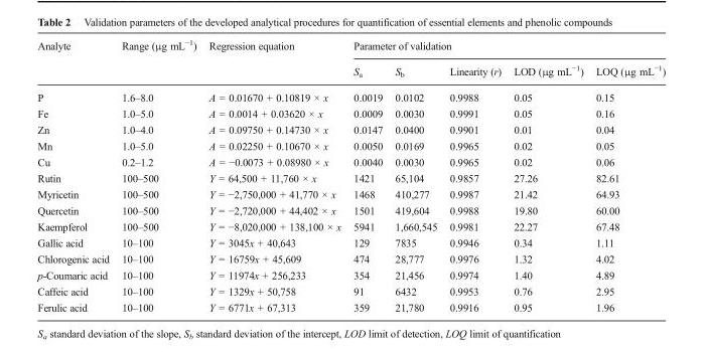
<table><thead><tr><td rowspan="2">Analyte</td><td rowspan="2">Range (μg mL<sup>−1</sup>)</td><td rowspan="2">Regression equation</td><td colspan="5">Parameter of validation</td></tr><tr><td>S<sub>a</sub></td><td>S<sub>b</sub></td><td>Linearity (r)</td><td>LOD (μg mL<sup>−1</sup>)</td><td>LOQ (μg mL<sup>−1</sup>)</td></tr></thead><tbody><tr><td>P</td><td>1.6–8.0</td><td>A = 0.01670 + 0.10819 × x</td><td>0.0019</td><td>0.0102</td><td>0.9988</td><td>0.05</td><td>0.15</td></tr><tr><td>Fe</td><td>1.0–5.0</td><td>A = 0.0014 + 0.03620 × x</td><td>0.0009</td><td>0.0030</td><td>0.9991</td><td>0.05</td><td>0.16</td></tr><tr><td>Zn</td><td>1.0–4.0</td><td>A = 0.09750 + 0.14730 × x</td><td>0.0147</td><td>0.0400</td><td>0.9901</td><td>0.01</td><td>0.04</td></tr><tr><td>Mn</td><td>1.0–5.0</td><td>A = 0.02250 + 0.10670 × x</td><td>0.0050</td><td>0.0169</td><td>0.9965</td><td>0.02</td><td>0.05</td></tr><tr><td>Cu</td><td>0.2–1.2</td><td>A = −0.0073 + 0.08980 × x</td><td>0.0040</td><td>0.0030</td><td>0.9965</td><td>0.02</td><td>0.06</td></tr><tr><td>Rutin</td><td>100–500</td><td>Y = 64,500 + 11,760 × x</td><td>1421</td><td>65,104</td><td>0.9857</td><td>27.26</td><td>82.61</td></tr><tr><td>Myricetin</td><td>100–500</td><td>Y = −2,750,000 + 41,770 × x</td><td>1468</td><td>410,277</td><td>0.9987</td><td>21.42</td><td>64.93</td></tr><tr><td>Quercetin</td><td>100–500</td><td>Y = −2,720,000 + 44,402 × x</td><td>1501</td><td>419,604</td><td>0.9988</td><td>19.80</td><td>60.00</td></tr><tr><td>Kaempferol</td><td>100–500</td><td>Y = −8,020,000 + 138,100 × x</td><td>5941</td><td>1,660,545</td><td>0.9981</td><td>22.27</td><td>67.48</td></tr><tr><td>Gallic acid</td><td>10–100</td><td>Y = 3045x + 40,643</td><td>129</td><td>7835</td><td>0.9946</td><td>0.34</td><td>1.11</td></tr><tr><td>Chlorogenic acid</td><td>10–100</td><td>Y = 16759x + 45,609</td><td>474</td><td>28,777</td><td>0.9976</td><td>1.32</td><td>4.02</td></tr><tr><td>p-Coumaric acid</td><td>10–100</td><td>Y = 11974x + 256,233</td><td>354</td><td>21,456</td><td>0.9974</td><td>1.40</td><td>4.89</td></tr><tr><td>Caffeic acid</td><td>10–100</td><td>Y = 1329x + 50,758</td><td>91</td><td>6432</td><td>0.9953</td><td>0.76</td><td>2.95</td></tr><tr><td>Ferulic acid</td><td>10–100</td><td>Y = 6771x + 67,313</td><td>359</td><td>21,780</td><td>0.9916</td><td>0.95</td><td>1.96</td></tr></tbody></table>